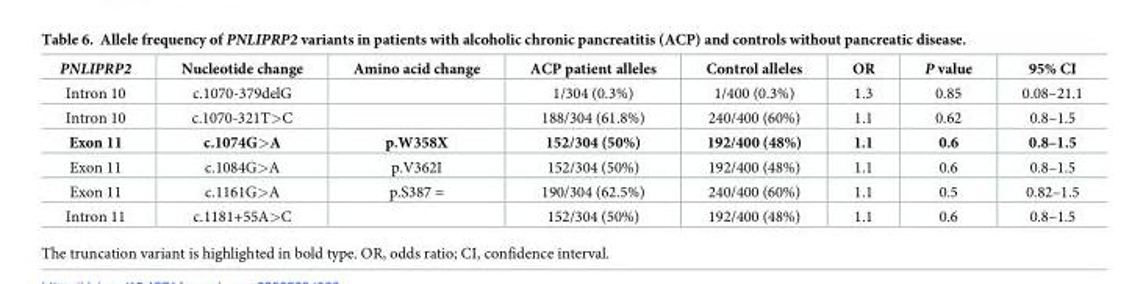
<table><thead><tr><td>PNLIPRP2</td><td>Nucleotide change</td><td>Amino acid change</td><td>ACP patient alleles</td><td>Control alleles</td><td>OR</td><td>P value</td><td>95% CI</td></tr></thead><tbody><tr><td>Intron 10</td><td>c.1070-379delG</td><td></td><td>1/304 (0.3%)</td><td>1/400 (0.3%)</td><td>1.3</td><td>0.85</td><td>0.08–21.1</td></tr><tr><td>Intron 10</td><td>c.1070-321T&gt;C</td><td></td><td>188/304 (61.8%)</td><td>240/400 (60%)</td><td>1.1</td><td>0.62</td><td>0.8–1.5</td></tr><tr><td>Exon 11</td><td>c.1074G&gt;A</td><td>p.W358X</td><td>152/304 (50%)</td><td>192/400 (48%)</td><td>1.1</td><td>0.6</td><td>0.8–1.5</td></tr><tr><td>Exon 11</td><td>c.1084G&gt;A</td><td>p.V362I</td><td>152/304 (50%)</td><td>192/400 (48%)</td><td>1.1</td><td>0.6</td><td>0.8–1.5</td></tr><tr><td>Exon 11</td><td>c.1161G&gt;A</td><td>p.S387 =</td><td>190/304 (62.5%)</td><td>240/400 (60%)</td><td>1.1</td><td>0.5</td><td>0.82–1.5</td></tr><tr><td>Intron 11</td><td>c.1181+55A&gt;C</td><td></td><td>152/304 (50%)</td><td>192/400 (48%)</td><td>1.1</td><td>0.6</td><td>0.8–1.5</td></tr></tbody></table>